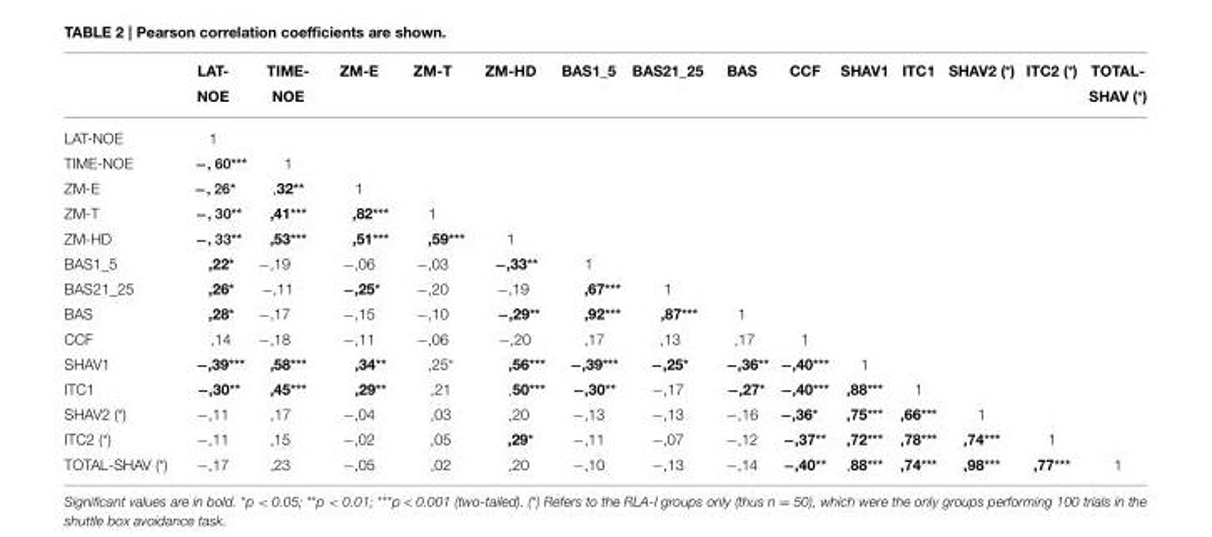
<table><thead><tr><td></td><td>LAT- NOE</td><td>TIME- NOE</td><td>ZM-E</td><td>ZM-T</td><td>ZM-HD</td><td>BAS1_5</td><td>BAS21_25</td><td>BAS</td><td>CCF</td><td>SHAV1</td><td>ITC1</td><td>SHAV2 (*)</td><td>ITC2 (*)</td><td>TOTAL- SHAV (*)</td></tr></thead><tbody><tr><td>LAT-NOE</td><td>1</td><td></td><td></td><td></td><td></td><td></td><td></td><td></td><td></td><td></td><td></td><td></td><td></td><td></td></tr><tr><td>TIME-NOE</td><td>−, 60***</td><td>1</td><td></td><td></td><td></td><td></td><td></td><td></td><td></td><td></td><td></td><td></td><td></td><td></td></tr><tr><td>ZM-E</td><td>−, 26*</td><td>,32**</td><td>1</td><td></td><td></td><td></td><td></td><td></td><td></td><td></td><td></td><td></td><td></td><td></td></tr><tr><td>ZM-T</td><td>−, 30**</td><td>,41***</td><td>,82***</td><td>1</td><td></td><td></td><td></td><td></td><td></td><td></td><td></td><td></td><td></td><td></td></tr><tr><td>ZM-HD</td><td>−, 33**</td><td>,53***</td><td>,51***</td><td>,59***</td><td>1</td><td></td><td></td><td></td><td></td><td></td><td></td><td></td><td></td><td></td></tr><tr><td>BAS1_5</td><td>,22*</td><td>−,19</td><td>−,06</td><td>−,03</td><td>−,33**</td><td>1</td><td></td><td></td><td></td><td></td><td></td><td></td><td></td><td></td></tr><tr><td>BAS21_25</td><td>,26*</td><td>−,11</td><td>−,25*</td><td>−,20</td><td>−,19</td><td>,67***</td><td>1</td><td></td><td></td><td></td><td></td><td></td><td></td><td></td></tr><tr><td>BAS</td><td>,28*</td><td>−,17</td><td>−,15</td><td>−,10</td><td>−,29**</td><td>,92***</td><td>,87***</td><td>1</td><td></td><td></td><td></td><td></td><td></td><td></td></tr><tr><td>CCF</td><td>,14</td><td>−,18</td><td>−,11</td><td>−,06</td><td>−,20</td><td>,17</td><td>,13</td><td>,17</td><td>1</td><td></td><td></td><td></td><td></td><td></td></tr><tr><td>SHAV1</td><td>−,39***</td><td>,58***</td><td>,34**</td><td>,25*</td><td>,56***</td><td>−,39***</td><td>−,25*</td><td>−,36**</td><td>−,40***</td><td>1</td><td></td><td></td><td></td><td></td></tr><tr><td>ITC1</td><td>−,30**</td><td>,45***</td><td>,29**</td><td>,21</td><td>,50***</td><td>−,30**</td><td>−,17</td><td>−,27*</td><td>−,40***</td><td>,88***</td><td>1</td><td></td><td></td><td></td></tr><tr><td>SHAV2 (*)</td><td>−,11</td><td>,17</td><td>−,04</td><td>,03</td><td>,20</td><td>−,13</td><td>−,13</td><td>−,16</td><td>−,36*</td><td>,75***</td><td>,66***</td><td>1</td><td></td><td></td></tr><tr><td>ITC2 (*)</td><td>−,11</td><td>,15</td><td>−,02</td><td>,05</td><td>,29*</td><td>−,11</td><td>−,07</td><td>−,12</td><td>−,37**</td><td>,72***</td><td>,78***</td><td>,74***</td><td>1</td><td></td></tr><tr><td>TOTAL-SHAV (*)</td><td>−,17</td><td>,23</td><td>−,05</td><td>,02</td><td>,20</td><td>−,10</td><td>−,13</td><td>−,14</td><td>−,40**</td><td>,88***</td><td>,74***</td><td>,98***</td><td>,77***</td><td>1</td></tr></tbody></table>